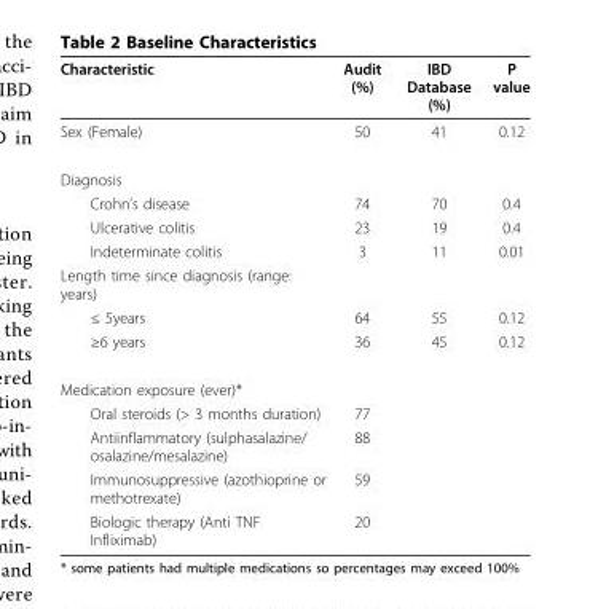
<table><thead><tr><td>Characteristic</td><td>Audit (%)</td><td>IBD Database (%)</td><td>P value</td></tr></thead><tbody><tr><td>Sex (Female)</td><td>50</td><td>41</td><td>0.12</td></tr><tr><td colspan="4">Diagnosis</td></tr><tr><td>Crohn’s disease</td><td>74</td><td>70</td><td>0.4</td></tr><tr><td>Ulcerative colitis</td><td>23</td><td>19</td><td>0.4</td></tr><tr><td>Indeterminate colitis</td><td>3</td><td>11</td><td>0.01</td></tr><tr><td colspan="4">Length time since diagnosis (range: years)</td></tr><tr><td>≤ 5years</td><td>64</td><td>55</td><td>0.12</td></tr><tr><td>≥6 years</td><td>36</td><td>45</td><td>0.12</td></tr><tr><td colspan="4">Medication exposure (ever)*</td></tr><tr><td>Oral steroids (&gt; 3 months duration)</td><td>77</td><td></td><td></td></tr><tr><td>Antiinflammatory (sulphasalazine/ osalazine/mesalazine)</td><td>88</td><td></td><td></td></tr><tr><td>Immunosuppressive (azothioprine or methotrexate)</td><td>59</td><td></td><td></td></tr><tr><td>Biologic therapy (Anti TNF Infliximab)</td><td>20</td><td></td><td></td></tr></tbody></table>